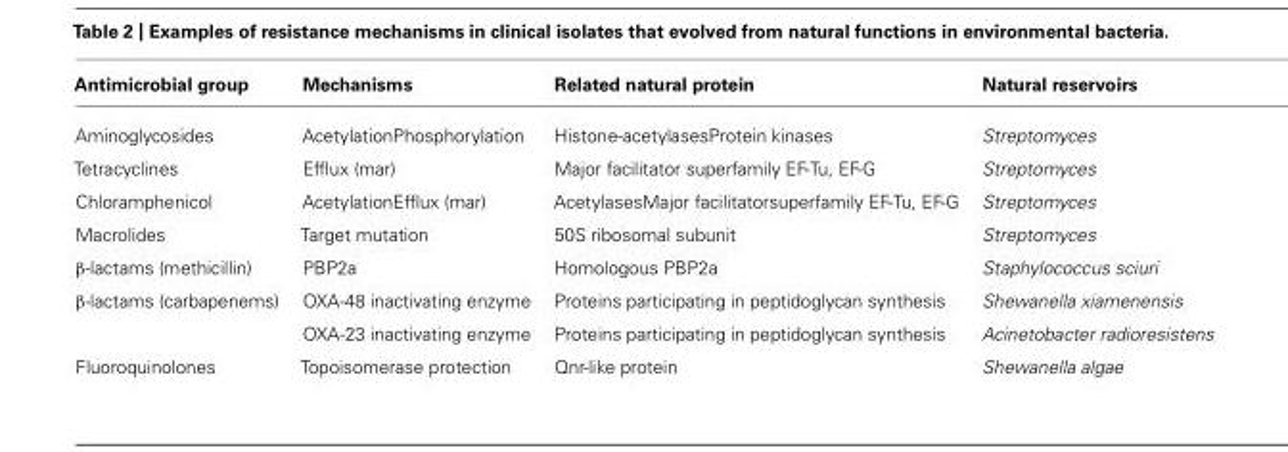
<table><thead><tr><td>Antimicrobial group</td><td>Mechanisms</td><td>Related natural protein</td><td>Natural reservoirs</td></tr></thead><tbody><tr><td>Aminoglycosides</td><td>AcetylationPhosphorylation</td><td>Histone-acetylasesProtein kinases</td><td>Streptomyces</td></tr><tr><td>Tetracyclines</td><td>Efflux (mar)</td><td>Major facilitator superfamily EF-Tu, EF-G</td><td>Streptomyces</td></tr><tr><td>Chloramphenicol</td><td>AcetylationEfflux (mar)</td><td>AcetylasesMajor facilitatorsuperfamily EF-Tu, EF-G</td><td>Streptomyces</td></tr><tr><td>Macrolides</td><td>Target mutation</td><td>50S ribosomal subunit</td><td>Streptomyces</td></tr><tr><td>β-lactams (methicillin)</td><td>PBP2a</td><td>Homologous PBP2a</td><td>Staphylococcus sciuri</td></tr><tr><td rowspan="2">β-lactams (carbapenems)</td><td>OXA-48 inactivating enzyme</td><td>Proteins participating in peptidoglycan synthesis</td><td>Shewanella xiamenensis</td></tr><tr><td>OXA-23 inactivating enzyme</td><td>Proteins participating in peptidoglycan synthesis</td><td>Acinetobacter radioresistens</td></tr><tr><td>Fluoroquinolones</td><td>Topoisomerase protection</td><td>Qnr-like protein</td><td>Shewanella algae</td></tr></tbody></table>